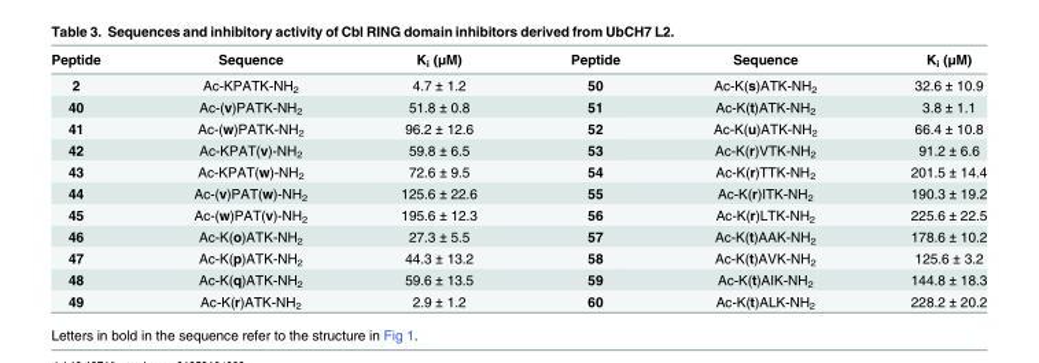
<table><thead><tr><td>Peptide</td><td>Sequence</td><td>K<sub>i</sub> (μM)</td><td>Peptide</td><td>Sequence</td><td>K<sub>i</sub> (μM)</td></tr></thead><tbody><tr><td>2</td><td>Ac-KPATK-NH<sub>2</sub></td><td>4.7 ± 1.2</td><td>50</td><td>Ac-K(s)ATK-NH<sub>2</sub></td><td>32.6 ± 10.9</td></tr><tr><td>40</td><td>Ac-(v)PATK-NH<sub>2</sub></td><td>51.8 ± 0.8</td><td>51</td><td>Ac-K(t)ATK-NH<sub>2</sub></td><td>3.8 ± 1.1</td></tr><tr><td>41</td><td>Ac-(w)PATK-NH<sub>2</sub></td><td>96.2 ± 12.6</td><td>52</td><td>Ac-K(u)ATK-NH<sub>2</sub></td><td>66.4 ± 10.8</td></tr><tr><td>42</td><td>Ac-KPAT(v)-NH<sub>2</sub></td><td>59.8 ± 6.5</td><td>53</td><td>Ac-K(r)VTK-NH<sub>2</sub></td><td>91.2 ± 6.6</td></tr><tr><td>43</td><td>Ac-KPAT(w)-NH<sub>2</sub></td><td>72.6 ± 9.5</td><td>54</td><td>Ac-K(r)TTK-NH<sub>2</sub></td><td>201.5 ± 14.4</td></tr><tr><td>44</td><td>Ac-(v)PAT(w)-NH<sub>2</sub></td><td>125.6 ± 22.6</td><td>55</td><td>Ac-K(r)ITK-NH<sub>2</sub></td><td>190.3 ± 19.2</td></tr><tr><td>45</td><td>Ac-(w)PAT(v)-NH<sub>2</sub></td><td>195.6 ± 12.3</td><td>56</td><td>Ac-K(r)LTK-NH<sub>2</sub></td><td>225.6 ± 22.5</td></tr><tr><td>46</td><td>Ac-K(o)ATK-NH<sub>2</sub></td><td>27.3 ± 5.5</td><td>57</td><td>Ac-K(t)AAK-NH<sub>2</sub></td><td>178.6 ± 10.2</td></tr><tr><td>47</td><td>Ac-K(p)ATK-NH<sub>2</sub></td><td>44.3 ± 13.2</td><td>58</td><td>Ac-K(t)AVK-NH<sub>2</sub></td><td>125.6 ± 3.2</td></tr><tr><td>48</td><td>Ac-K(q)ATK-NH<sub>2</sub></td><td>59.6 ± 13.5</td><td>59</td><td>Ac-K(t)AIK-NH<sub>2</sub></td><td>144.8 ± 18.3</td></tr><tr><td>49</td><td>Ac-K(r)ATK-NH<sub>2</sub></td><td>2.9 ± 1.2</td><td>60</td><td>Ac-K(t)ALK-NH<sub>2</sub></td><td>228.2 ± 20.2</td></tr></tbody></table>